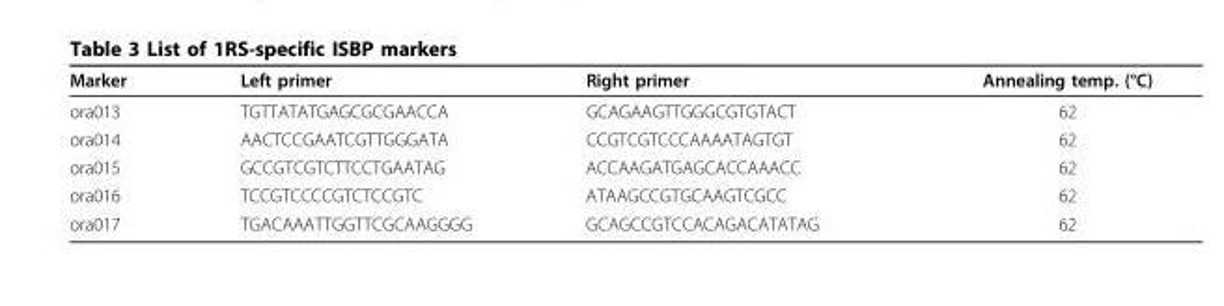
<table><thead><tr><td>Marker</td><td>Left primer</td><td>Right primer</td><td>Annealing temp. (°C)</td></tr></thead><tbody><tr><td>ora013</td><td>TGTTATATGAGCGCGAACCA</td><td>GCAGAAGTTGGGCGTGTACT</td><td>62</td></tr><tr><td>ora014</td><td>AACTCCGAATCGTTGGGATA</td><td>CCGTCGTCCCAAAATAGTGT</td><td>62</td></tr><tr><td>ora015</td><td>GCCGTCGTCTTCCTGAATAG</td><td>ACCAAGATGAGCACCAAACC</td><td>62</td></tr><tr><td>ora016</td><td>TCCGTCCCCGTCTCCGTC</td><td>ATAAGCCGTGCAAGTCGCC</td><td>62</td></tr><tr><td>ora017</td><td>TGACAAATTGGTTCGCAAGGGG</td><td>GCAGCCGTCCACAGACATATAG</td><td>62</td></tr></tbody></table>